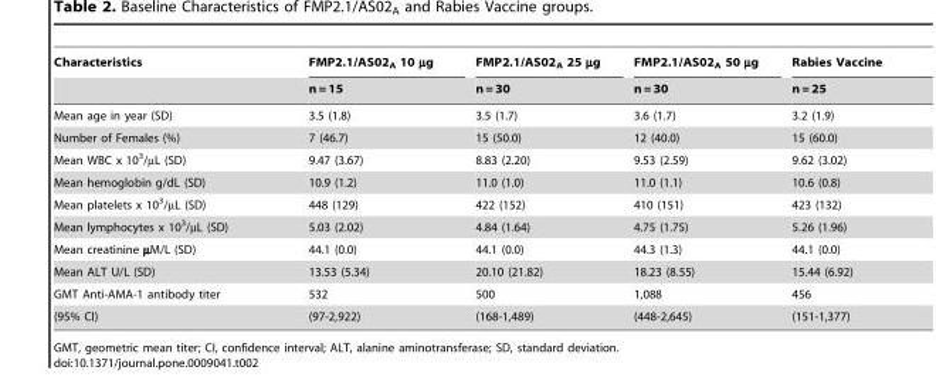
<table><thead><tr><td rowspan="2">Characteristics</td><td rowspan="2">FMP2.1/AS02<sub>A</sub> 10 µg n = 15</td><td rowspan="2">FMP2.1/AS02<sub>A</sub> 25 µg n = 30</td><td rowspan="2">FMP2.1/AS02<sub>A</sub> 50 µg n = 30</td><td rowspan="2">Rabies Vaccine n = 25</td></tr><tr></tr></thead><tbody><tr><td>Mean age in year (SD)</td><td>3.5 (1.8)</td><td>3.5 (1.7)</td><td>3.6 (1.7)</td><td>3.2 (1.9)</td></tr><tr><td>Number of Females (%)</td><td>7 (46.7)</td><td>15 (50.0)</td><td>12 (40.0)</td><td>15 (60.0)</td></tr><tr><td>Mean WBC x 10<sup>3</sup>/µL (SD)</td><td>9.47 (3.67)</td><td>8.83 (2.20)</td><td>9.53 (2.59)</td><td>9.62 (3.02)</td></tr><tr><td>Mean hemoglobin g/dL (SD)</td><td>10.9 (1.2)</td><td>11.0 (1.0)</td><td>11.0 (1.1)</td><td>10.6 (0.8)</td></tr><tr><td>Mean platelets x 10<sup>3</sup>/µL (SD)</td><td>448 (129)</td><td>422 (152)</td><td>410 (151)</td><td>423 (132)</td></tr><tr><td>Mean lymphocytes x 10<sup>3</sup>/µL (SD)</td><td>5.03 (2.02)</td><td>4.84 (1.64)</td><td>4.75 (1.75)</td><td>5.26 (1.96)</td></tr><tr><td>Mean creatinine µM/L (SD)</td><td>44.1 (0.0)</td><td>44.1 (0.0)</td><td>44.3 (1.3)</td><td>44.1 (0.0)</td></tr><tr><td>Mean ALT U/L (SD)</td><td>13.53 (5.34)</td><td>20.10 (21.82)</td><td>18.23 (8.55)</td><td>15.44 (6.92)</td></tr><tr><td>GMT Anti-AMA-1 antibody titer</td><td>532</td><td>500</td><td>1,088</td><td>456</td></tr><tr><td>(95% CI)</td><td>(97-2,922)</td><td>(168-1,489)</td><td>(448-2,645)</td><td>(151-1,377)</td></tr></tbody></table>